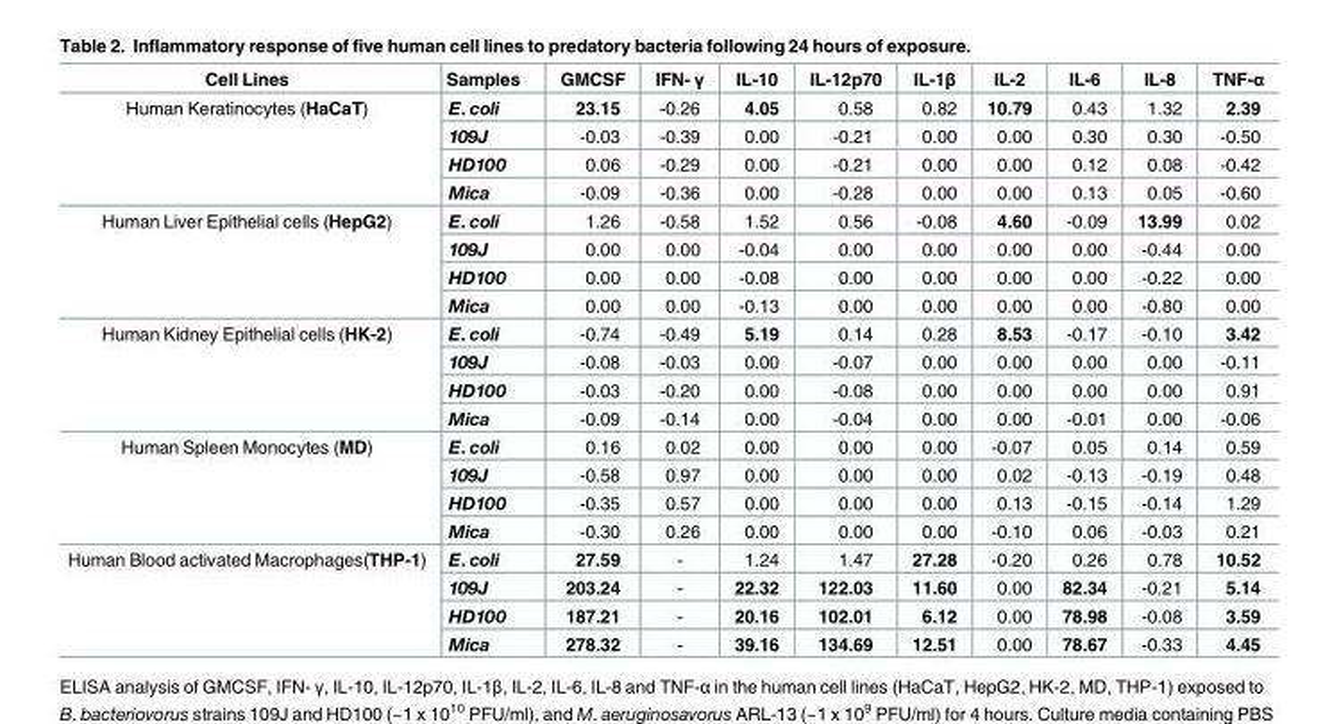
<table><thead><tr><td>Cell Lines</td><td>Samples</td><td>GMCSF</td><td>IFN- γ</td><td>IL-10</td><td>IL-12p70</td><td>IL-1β</td><td>IL-2</td><td>IL-6</td><td>IL-8</td><td>TNF-α</td></tr></thead><tbody><tr><td rowspan="4">Human Keratinocytes (HaCaT)</td><td>E. coli</td><td>23.15</td><td>-0.26</td><td>4.05</td><td>0.58</td><td>0.82</td><td>10.79</td><td>0.43</td><td>1.32</td><td>2.39</td></tr><tr><td>109J</td><td>-0.03</td><td>-0.39</td><td>0.00</td><td>-0.21</td><td>0.00</td><td>0.00</td><td>0.30</td><td>0.30</td><td>-0.50</td></tr><tr><td>HD100</td><td>0.06</td><td>-0.29</td><td>0.00</td><td>-0.21</td><td>0.00</td><td>0.00</td><td>0.12</td><td>0.08</td><td>-0.42</td></tr><tr><td>Mica</td><td>-0.09</td><td>-0.36</td><td>0.00</td><td>-0.28</td><td>0.00</td><td>0.00</td><td>0.13</td><td>0.05</td><td>-0.60</td></tr><tr><td rowspan="4">Human Liver Epithelial cells (HepG2)</td><td>E. coli</td><td>1.26</td><td>-0.58</td><td>1.52</td><td>0.56</td><td>-0.08</td><td>4.60</td><td>-0.09</td><td>13.99</td><td>0.02</td></tr><tr><td>109J</td><td>0.00</td><td>0.00</td><td>-0.04</td><td>0.00</td><td>0.00</td><td>0.00</td><td>0.00</td><td>-0.44</td><td>0.00</td></tr><tr><td>HD100</td><td>0.00</td><td>0.00</td><td>-0.08</td><td>0.00</td><td>0.00</td><td>0.00</td><td>0.00</td><td>-0.22</td><td>0.00</td></tr><tr><td>Mica</td><td>0.00</td><td>0.00</td><td>-0.13</td><td>0.00</td><td>0.00</td><td>0.00</td><td>0.00</td><td>-0.80</td><td>0.00</td></tr><tr><td rowspan="4">Human Kidney Epithelial cells (HK-2)</td><td>E. coli</td><td>-0.74</td><td>-0.49</td><td>5.19</td><td>0.14</td><td>0.28</td><td>8.53</td><td>-0.17</td><td>-0.10</td><td>3.42</td></tr><tr><td>109J</td><td>-0.08</td><td>-0.03</td><td>0.00</td><td>-0.07</td><td>0.00</td><td>0.00</td><td>0.00</td><td>0.00</td><td>-0.11</td></tr><tr><td>HD100</td><td>-0.03</td><td>-0.20</td><td>0.00</td><td>-0.08</td><td>0.00</td><td>0.00</td><td>0.00</td><td>0.00</td><td>0.91</td></tr><tr><td>Mica</td><td>-0.09</td><td>-0.14</td><td>0.00</td><td>-0.04</td><td>0.00</td><td>0.00</td><td>-0.01</td><td>0.00</td><td>-0.06</td></tr><tr><td rowspan="4">Human Spleen Monocytes (MD)</td><td>E. coli</td><td>0.16</td><td>0.02</td><td>0.00</td><td>0.00</td><td>0.00</td><td>-0.07</td><td>0.05</td><td>0.14</td><td>0.59</td></tr><tr><td>109J</td><td>-0.58</td><td>0.97</td><td>0.00</td><td>0.00</td><td>0.00</td><td>0.02</td><td>-0.13</td><td>-0.19</td><td>0.48</td></tr><tr><td>HD100</td><td>-0.35</td><td>0.57</td><td>0.00</td><td>0.00</td><td>0.00</td><td>0.13</td><td>-0.15</td><td>-0.14</td><td>1.29</td></tr><tr><td>Mica</td><td>-0.30</td><td>0.26</td><td>0.00</td><td>0.00</td><td>0.00</td><td>-0.10</td><td>0.06</td><td>-0.03</td><td>0.21</td></tr><tr><td rowspan="4">Human Blood activated Macrophages(THP-1)</td><td>E. coli</td><td>27.59</td><td>-</td><td>1.24</td><td>1.47</td><td>27.28</td><td>-0.20</td><td>0.26</td><td>0.78</td><td>10.52</td></tr><tr><td>109J</td><td>203.24</td><td>-</td><td>22.32</td><td>122.03</td><td>11.60</td><td>0.00</td><td>82.34</td><td>-0.21</td><td>5.14</td></tr><tr><td>HD100</td><td>187.21</td><td>-</td><td>20.16</td><td>102.01</td><td>6.12</td><td>0.00</td><td>78.98</td><td>-0.08</td><td>3.59</td></tr><tr><td>Mica</td><td>278.32</td><td>-</td><td>39.16</td><td>134.69</td><td>12.51</td><td>0.00</td><td>78.67</td><td>-0.33</td><td>4.45</td></tr></tbody></table>